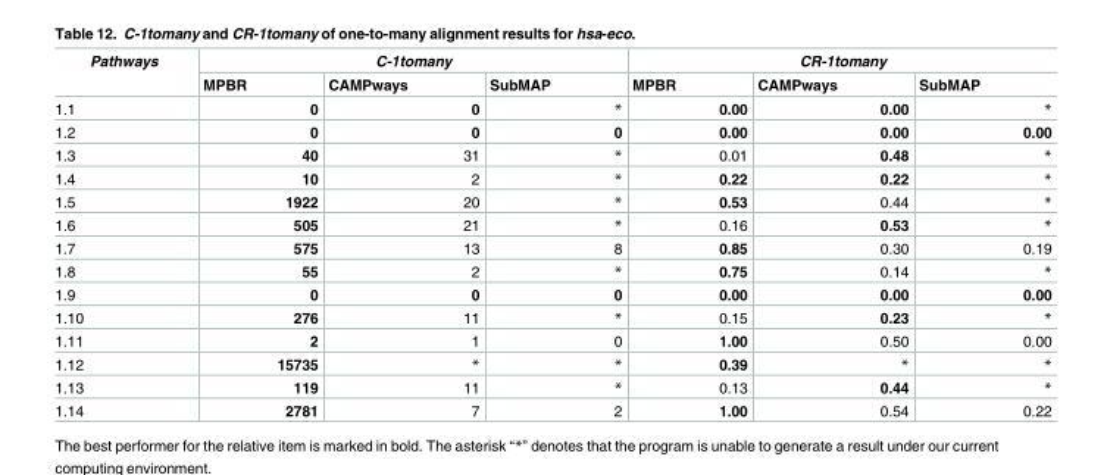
<table><thead><tr><td rowspan="2">Pathways</td><td colspan="3">C-1tomany</td><td colspan="3">CR-1tomany</td></tr><tr><td>MPBR</td><td>CAMPways</td><td>SubMAP</td><td>MPBR</td><td>CAMPways</td><td>SubMAP</td></tr></thead><tbody><tr><td>1.1</td><td>0</td><td>0</td><td>*</td><td>0.00</td><td>0.00</td><td>*</td></tr><tr><td>1.2</td><td>0</td><td>0</td><td>0</td><td>0.00</td><td>0.00</td><td>0.00</td></tr><tr><td>1.3</td><td>40</td><td>31</td><td>*</td><td>0.01</td><td>0.48</td><td>*</td></tr><tr><td>1.4</td><td>10</td><td>2</td><td>*</td><td>0.22</td><td>0.22</td><td>*</td></tr><tr><td>1.5</td><td>1922</td><td>20</td><td>*</td><td>0.53</td><td>0.44</td><td>*</td></tr><tr><td>1.6</td><td>505</td><td>21</td><td>*</td><td>0.16</td><td>0.53</td><td>*</td></tr><tr><td>1.7</td><td>575</td><td>13</td><td>8</td><td>0.85</td><td>0.30</td><td>0.19</td></tr><tr><td>1.8</td><td>55</td><td>2</td><td>*</td><td>0.75</td><td>0.14</td><td>*</td></tr><tr><td>1.9</td><td>0</td><td>0</td><td>0</td><td>0.00</td><td>0.00</td><td>0.00</td></tr><tr><td>1.10</td><td>276</td><td>11</td><td>*</td><td>0.15</td><td>0.23</td><td>*</td></tr><tr><td>1.11</td><td>2</td><td>1</td><td>0</td><td>1.00</td><td>0.50</td><td>0.00</td></tr><tr><td>1.12</td><td>15735</td><td>*</td><td>*</td><td>0.39</td><td>*</td><td>*</td></tr><tr><td>1.13</td><td>119</td><td>11</td><td>*</td><td>0.13</td><td>0.44</td><td>*</td></tr><tr><td>1.14</td><td>2781</td><td>7</td><td>2</td><td>1.00</td><td>0.54</td><td>0.22</td></tr></tbody></table>